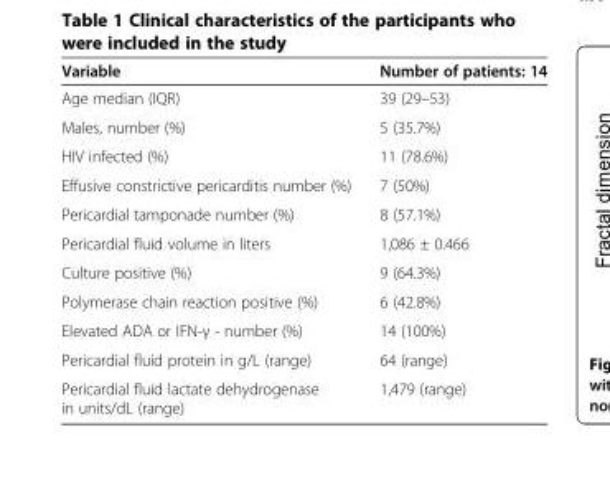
<table><thead><tr><td>Variable</td><td>Number of patients: 14</td></tr></thead><tbody><tr><td>Age median (IQR)</td><td>39 (29–53)</td></tr><tr><td>Males, number (%)</td><td>5 (35.7%)</td></tr><tr><td>HIV infected (%)</td><td>11 (78.6%)</td></tr><tr><td>Effusive constrictive pericarditis number (%)</td><td>7 (50%)</td></tr><tr><td>Pericardial tamponade number (%)</td><td>8 (57.1%)</td></tr><tr><td>Pericardial fluid volume in liters</td><td>1,086 ± 0.466</td></tr><tr><td>Culture positive (%)</td><td>9 (64.3%)</td></tr><tr><td>Polymerase chain reaction positive (%)</td><td>6 (42.8%)</td></tr><tr><td>Elevated ADA or IFN-γ - number (%)</td><td>14 (100%)</td></tr><tr><td>Pericardial fluid protein in g/L (range)</td><td>64 (range)</td></tr><tr><td>Pericardial fluid lactate dehydrogenase in units/dL (range)</td><td>1,479 (range)</td></tr></tbody></table>